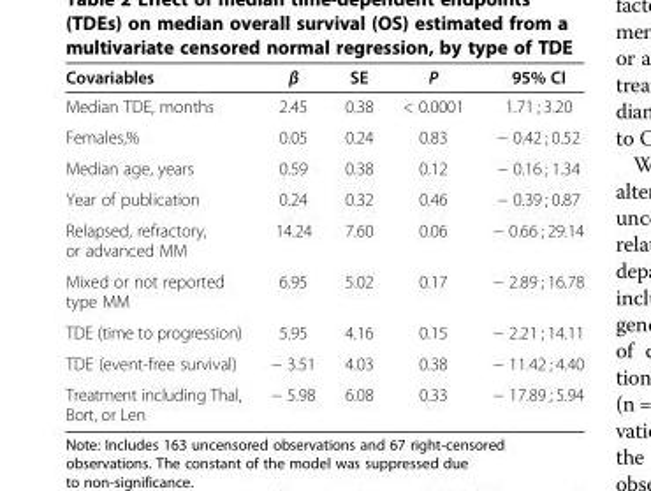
<table><thead><tr><td>Covariables</td><td>β</td><td>SE</td><td>P</td><td>95% CI</td></tr></thead><tbody><tr><td>Median TDE, months</td><td>2.45</td><td>0.38</td><td>&lt; 0.0001</td><td>1.71 ; 3.20</td></tr><tr><td>Females,%</td><td>0.05</td><td>0.24</td><td>0.83</td><td>− 0.42 ; 0.52</td></tr><tr><td>Median age, years</td><td>0.59</td><td>0.38</td><td>0.12</td><td>− 0.16 ; 1.34</td></tr><tr><td>Year of publication</td><td>0.24</td><td>0.32</td><td>0.46</td><td>− 0.39 ; 0.87</td></tr><tr><td>Relapsed, refractory, or advanced MM</td><td>14.24</td><td>7.60</td><td>0.06</td><td>− 0.66 ; 29.14</td></tr><tr><td>Mixed or not reported type MM</td><td>6.95</td><td>5.02</td><td>0.17</td><td>− 2.89 ; 16.78</td></tr><tr><td>TDE (time to progression)</td><td>5.95</td><td>4.16</td><td>0.15</td><td>− 2.21 ; 14.11</td></tr><tr><td>TDE (event-free survival)</td><td>− 3.51</td><td>4.03</td><td>0.38</td><td>− 11.42 ; 4.40</td></tr><tr><td>Treatment including Thal, Bort, or Len</td><td>− 5.98</td><td>6.08</td><td>0.33</td><td>− 17.89 ; 5.94</td></tr></tbody></table>